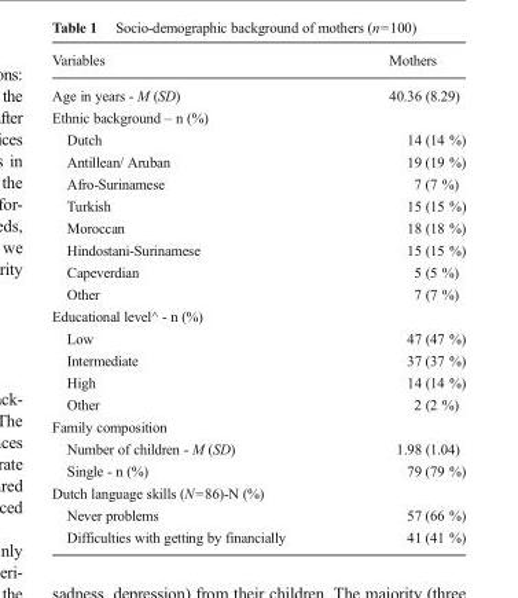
<table><thead><tr><td>Variables</td><td>Mothers</td></tr></thead><tbody><tr><td>Age in years - M (SD)</td><td>40.36 (8.29)</td></tr><tr><td colspan="2">Ethnic background – n (%)</td></tr><tr><td>Dutch</td><td>14 (14 %)</td></tr><tr><td>Antillean/ Aruban</td><td>19 (19 %)</td></tr><tr><td>Afro-Surinamese</td><td>7 (7 %)</td></tr><tr><td>Turkish</td><td>15 (15 %)</td></tr><tr><td>Moroccan</td><td>18 (18 %)</td></tr><tr><td>Hindostani-Surinamese</td><td>15 (15 %)</td></tr><tr><td>Capeverdian</td><td>5 (5 %)</td></tr><tr><td>Other</td><td>7 (7 %)</td></tr><tr><td colspan="2">Educational level^ - n (%)</td></tr><tr><td>Low</td><td>47 (47 %)</td></tr><tr><td>Intermediate</td><td>37 (37 %)</td></tr><tr><td>High</td><td>14 (14 %)</td></tr><tr><td>Other</td><td>2 (2 %)</td></tr><tr><td colspan="2">Family composition</td></tr><tr><td>Number of children - M (SD)</td><td>1.98 (1.04)</td></tr><tr><td>Single - n (%)</td><td>79 (79 %)</td></tr><tr><td colspan="2">Dutch language skills (N=86)-N (%)</td></tr><tr><td>Never problems</td><td>57 (66 %)</td></tr><tr><td>Difficulties with getting by financially</td><td>41 (41 %)</td></tr></tbody></table>